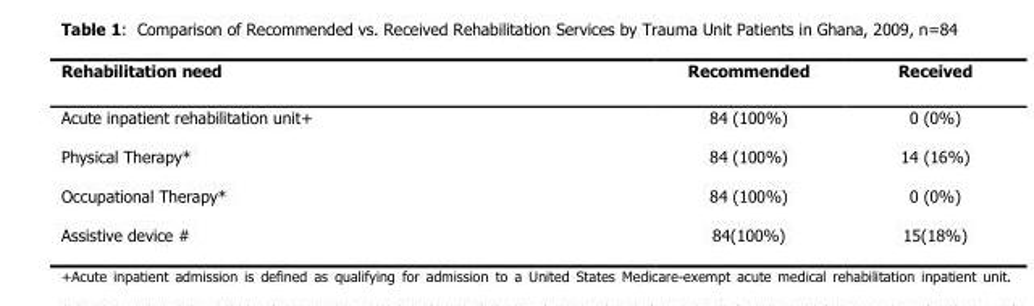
<table><thead><tr><td>Rehabilitation need</td><td>Recommended</td><td>Received</td></tr></thead><tbody><tr><td>Acute inpatient rehabilitation unit+</td><td>84 (100%)</td><td>0 (0%)</td></tr><tr><td>Physical Therapy*</td><td>84 (100%)</td><td>14 (16%)</td></tr><tr><td>Occupational Therapy*</td><td>84 (100%)</td><td>0 (0%)</td></tr><tr><td>Assistive device #</td><td>84(100%)</td><td>15(18%)</td></tr></tbody></table>